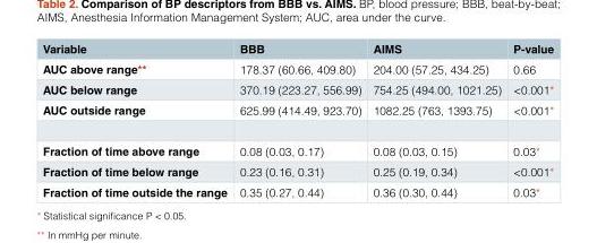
<table><thead><tr><td>Variable</td><td>BBB</td><td>AIMS</td><td>P-value</td></tr></thead><tbody><tr><td>AUC above range**</td><td>178.37 (60.66, 409.80)</td><td>204.00 (57.25, 434.25)</td><td>0.66</td></tr><tr><td>AUC below range</td><td>370.19 (223.27, 556.99)</td><td>754.25 (494.00, 1021.25)</td><td>&lt;0.001*</td></tr><tr><td>AUC outside range</td><td>625.99 (414.49, 923.70)</td><td>1082.25 (763, 1393.75)</td><td>&lt;0.001*</td></tr><tr><td>Fraction of time above range</td><td>0.08 (0.03, 0.17)</td><td>0.08 (0.03, 0.15)</td><td>0.03*</td></tr><tr><td>Fraction of time below range</td><td>0.23 (0.16, 0.31)</td><td>0.25 (0.19, 0.34)</td><td>&lt;0.001*</td></tr><tr><td>Fraction of time outside the range</td><td>0.35 (0.27, 0.44)</td><td>0.36 (0.30, 0.44)</td><td>0.03*</td></tr></tbody></table>